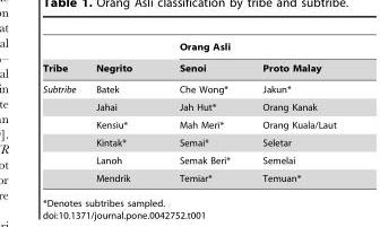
<table><thead><tr><td rowspan="2">Tribe</td><td rowspan="2">Negrito</td><td colspan="2">Orang Asli</td></tr><tr><td>Senoi</td><td>Proto Malay</td></tr></thead><tbody><tr><td rowspan="6">Subtribe</td><td>Batek</td><td>Che Wong*</td><td>Jakun*</td></tr><tr><td>Jahai</td><td>Jah Hut*</td><td>Orang Kanak</td></tr><tr><td>Kensiu*</td><td>Mah Meri*</td><td>Orang Kuala/Laut</td></tr><tr><td>Kintak*</td><td>Semai*</td><td>Seletar</td></tr><tr><td>Lanoh</td><td>Semak Beri*</td><td>Semelai</td></tr><tr><td>Mendrik</td><td>Temiar*</td><td>Temuan*</td></tr></tbody></table>